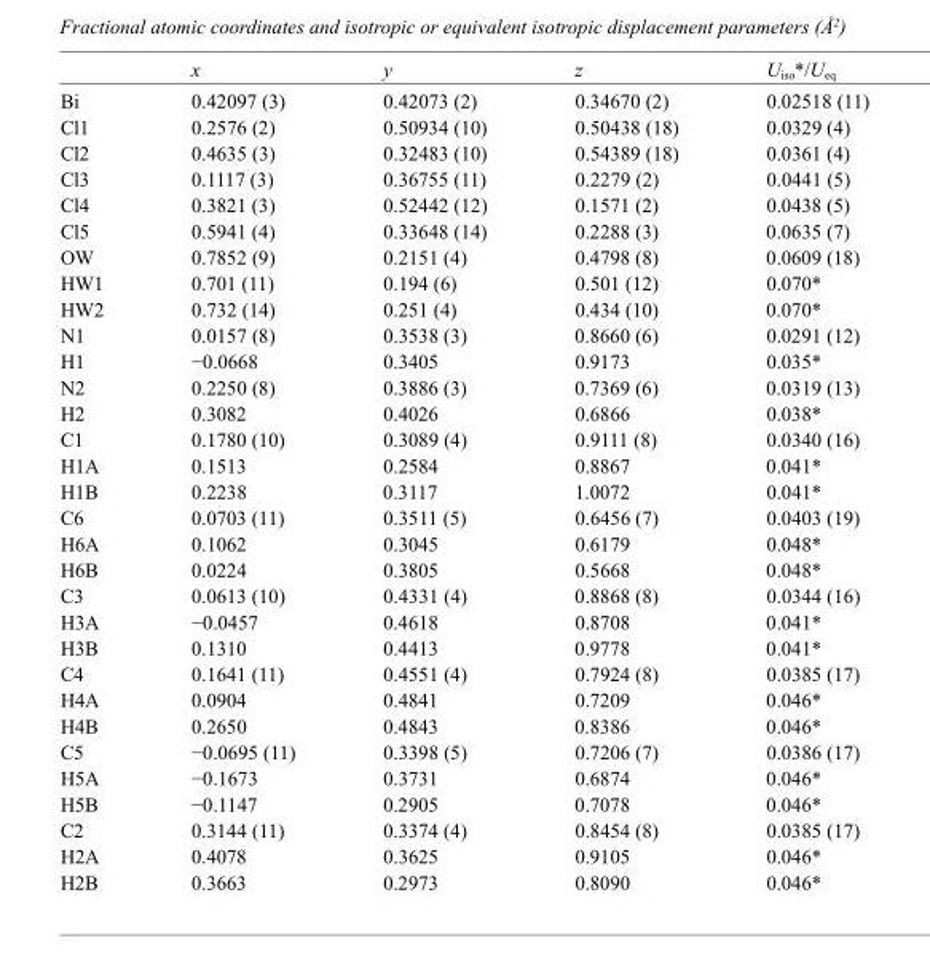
<table><thead><tr><td></td><td>x</td><td>y</td><td>z</td><td>U<sub>iso</sub>*/U<sub>eq</sub></td></tr></thead><tbody><tr><td>Bi</td><td>0.42097 (3)</td><td>0.42073 (2)</td><td>0.34670 (2)</td><td>0.02518 (11)</td></tr><tr><td>Cl1</td><td>0.2576 (2)</td><td>0.50934 (10)</td><td>0.50438 (18)</td><td>0.0329 (4)</td></tr><tr><td>Cl2</td><td>0.4635 (3)</td><td>0.32483 (10)</td><td>0.54389 (18)</td><td>0.0361 (4)</td></tr><tr><td>Cl3</td><td>0.1117 (3)</td><td>0.36755 (11)</td><td>0.2279 (2)</td><td>0.0441 (5)</td></tr><tr><td>Cl4</td><td>0.3821 (3)</td><td>0.52442 (12)</td><td>0.1571 (2)</td><td>0.0438 (5)</td></tr><tr><td>Cl5</td><td>0.5941 (4)</td><td>0.33648 (14)</td><td>0.2288 (3)</td><td>0.0635 (7)</td></tr><tr><td>OW</td><td>0.7852 (9)</td><td>0.2151 (4)</td><td>0.4798 (8)</td><td>0.0609 (18)</td></tr><tr><td>HW1</td><td>0.701 (11)</td><td>0.194 (6)</td><td>0.501 (12)</td><td>0.070*</td></tr><tr><td>HW2</td><td>0.732 (14)</td><td>0.251 (4)</td><td>0.434 (10)</td><td>0.070*</td></tr><tr><td>N1</td><td>0.0157 (8)</td><td>0.3538 (3)</td><td>0.8660 (6)</td><td>0.0291 (12)</td></tr><tr><td>H1</td><td>−0.0668</td><td>0.3405</td><td>0.9173</td><td>0.035*</td></tr><tr><td>N2</td><td>0.2250 (8)</td><td>0.3886 (3)</td><td>0.7369 (6)</td><td>0.0319 (13)</td></tr><tr><td>H2</td><td>0.3082</td><td>0.4026</td><td>0.6866</td><td>0.038*</td></tr><tr><td>C1</td><td>0.1780 (10)</td><td>0.3089 (4)</td><td>0.9111 (8)</td><td>0.0340 (16)</td></tr><tr><td>H1A</td><td>0.1513</td><td>0.2584</td><td>0.8867</td><td>0.041*</td></tr><tr><td>H1B</td><td>0.2238</td><td>0.3117</td><td>1.0072</td><td>0.041*</td></tr><tr><td>C6</td><td>0.0703 (11)</td><td>0.3511 (5)</td><td>0.6456 (7)</td><td>0.0403 (19)</td></tr><tr><td>H6A</td><td>0.1062</td><td>0.3045</td><td>0.6179</td><td>0.048*</td></tr><tr><td>H6B</td><td>0.0224</td><td>0.3805</td><td>0.5668</td><td>0.048*</td></tr><tr><td>C3</td><td>0.0613 (10)</td><td>0.4331 (4)</td><td>0.8868 (8)</td><td>0.0344 (16)</td></tr><tr><td>H3A</td><td>−0.0457</td><td>0.4618</td><td>0.8708</td><td>0.041*</td></tr><tr><td>H3B</td><td>0.1310</td><td>0.4413</td><td>0.9778</td><td>0.041*</td></tr><tr><td>C4</td><td>0.1641 (11)</td><td>0.4551 (4)</td><td>0.7924 (8)</td><td>0.0385 (17)</td></tr><tr><td>H4A</td><td>0.0904</td><td>0.4841</td><td>0.7209</td><td>0.046*</td></tr><tr><td>H4B</td><td>0.2650</td><td>0.4843</td><td>0.8386</td><td>0.046*</td></tr><tr><td>C5</td><td>−0.0695 (11)</td><td>0.3398 (5)</td><td>0.7206 (7)</td><td>0.0386 (17)</td></tr><tr><td>H5A</td><td>−0.1673</td><td>0.3731</td><td>0.6874</td><td>0.046*</td></tr><tr><td>H5B</td><td>−0.1147</td><td>0.2905</td><td>0.7078</td><td>0.046*</td></tr><tr><td>C2</td><td>0.3144 (11)</td><td>0.3374 (4)</td><td>0.8454 (8)</td><td>0.0385 (17)</td></tr><tr><td>H2A</td><td>0.4078</td><td>0.3625</td><td>0.9105</td><td>0.046*</td></tr><tr><td>H2B</td><td>0.3663</td><td>0.2973</td><td>0.8090</td><td>0.046*</td></tr></tbody></table>